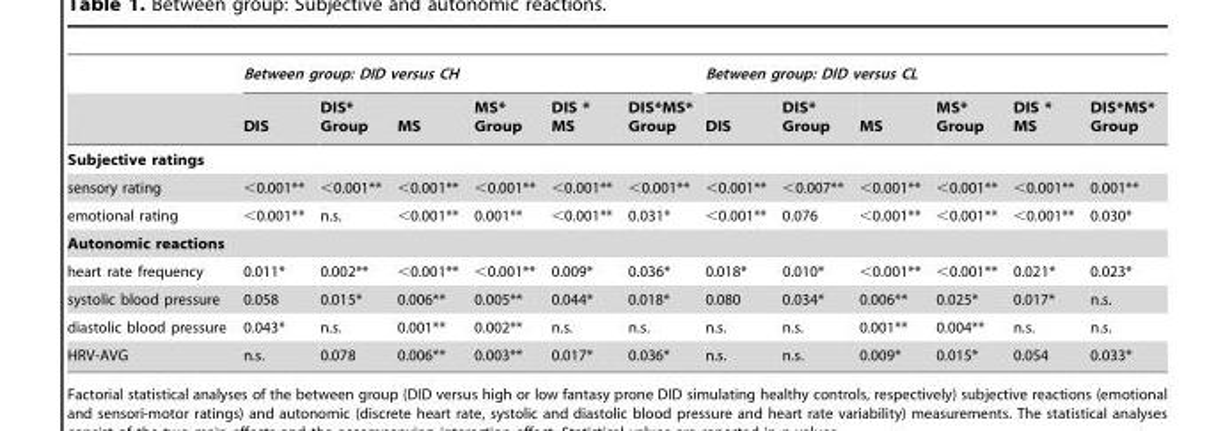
<table><thead><tr><td rowspan="2"></td><td colspan="6">Between group: DID versus CH</td><td colspan="6">Between group: DID versus CL</td></tr><tr><td>DIS</td><td>DIS* Group</td><td>MS</td><td>MS* Group</td><td>DIS * MS</td><td>DIS*MS* Group</td><td>DIS</td><td>DIS* Group</td><td>MS</td><td>MS* Group</td><td>DIS * MS</td><td>DIS*MS* Group</td></tr></thead><tbody><tr><td colspan="13">Subjective ratings</td></tr><tr><td>sensory rating</td><td>&lt;0.001**</td><td>&lt;0.001**</td><td>&lt;0.001**</td><td>&lt;0.001**</td><td>&lt;0.001**</td><td>&lt;0.001**</td><td>&lt;0.001**</td><td>&lt;0.007**</td><td>&lt;0.001**</td><td>&lt;0.001**</td><td>&lt;0.001**</td><td>0.001**</td></tr><tr><td>emotional rating</td><td>&lt;0.001**</td><td>n.s.</td><td>&lt;0.001**</td><td>0.001**</td><td>&lt;0.001**</td><td>0.031*</td><td>&lt;0.001**</td><td>0.076</td><td>&lt;0.001**</td><td>&lt;0.001**</td><td>&lt;0.001**</td><td>0.030*</td></tr><tr><td colspan="13">Autonomic reactions</td></tr><tr><td>heart rate frequency</td><td>0.011*</td><td>0.002**</td><td>&lt;0.001**</td><td>&lt;0.001**</td><td>0.009*</td><td>0.036*</td><td>0.018*</td><td>0.010*</td><td>&lt;0.001**</td><td>&lt;0.001**</td><td>0.021*</td><td>0.023*</td></tr><tr><td>systolic blood pressure</td><td>0.058</td><td>0.015*</td><td>0.006**</td><td>0.005**</td><td>0.044*</td><td>0.018*</td><td>0.080</td><td>0.034*</td><td>0.006**</td><td>0.025*</td><td>0.017*</td><td>n.s.</td></tr><tr><td>diastolic blood pressure</td><td>0.043*</td><td>n.s.</td><td>0.001**</td><td>0.002**</td><td>n.s.</td><td>n.s.</td><td>n.s.</td><td>n.s.</td><td>0.001**</td><td>0.004**</td><td>n.s.</td><td>n.s.</td></tr><tr><td>HRV-AVG</td><td>n.s.</td><td>0.078</td><td>0.006**</td><td>0.003**</td><td>0.017*</td><td>0.036*</td><td>n.s.</td><td>n.s.</td><td>0.009*</td><td>0.015*</td><td>0.054</td><td>0.033*</td></tr></tbody></table>